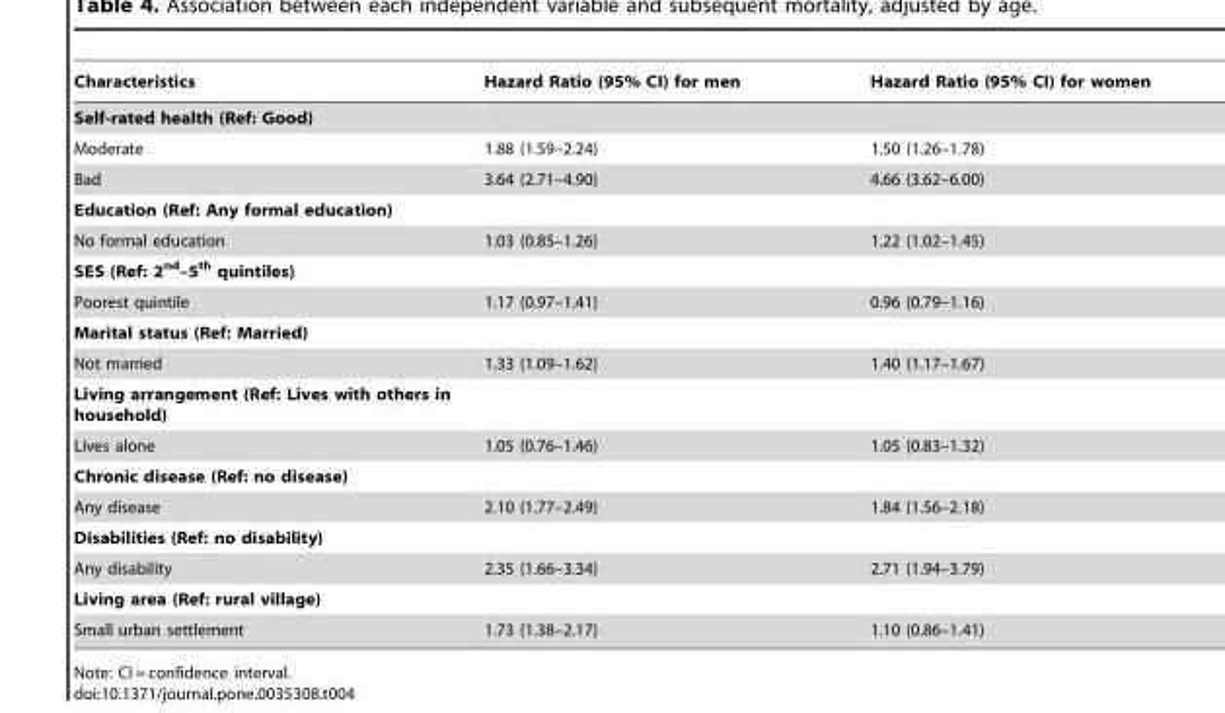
<table><thead><tr><td>Characteristics</td><td>Hazard Ratio (95% CI) for men</td><td>Hazard Ratio (95% CI) for women</td></tr></thead><tbody><tr><td colspan="3">Self-rated health (Ref: Good)</td></tr><tr><td>Moderate</td><td>1.88 (1.59–2.24)</td><td>1.50 (1.26–1.78)</td></tr><tr><td>Bad</td><td>3.64 (2.71–4.90)</td><td>4.66 (3.62–6.00)</td></tr><tr><td colspan="3">Education (Ref: Any formal education)</td></tr><tr><td>No formal education</td><td>1.03 (0.85–1.26)</td><td>1.22 (1.02–1.45)</td></tr><tr><td colspan="3">SES (Ref: 2<sup>nd</sup>–5<sup>th</sup> quintiles)</td></tr><tr><td>Poorest quintile</td><td>1.17 (0.97–1.41)</td><td>0.96 (0.79–1.16)</td></tr><tr><td colspan="3">Marital status (Ref: Married)</td></tr><tr><td>Not married</td><td>1.33 (1.09–1.62)</td><td>1.40 (1.17–1.67)</td></tr><tr><td colspan="3">Living arrangement (Ref: Lives with others in household)</td></tr><tr><td>Lives alone</td><td>1.05 (0.76–1.46)</td><td>1.05 (0.83–1.32)</td></tr><tr><td colspan="3">Chronic disease (Ref: no disease)</td></tr><tr><td>Any disease</td><td>2.10 (1.77–2.49)</td><td>1.84 (1.56–2.18)</td></tr><tr><td colspan="3">Disabilities (Ref: no disability)</td></tr><tr><td>Any disability</td><td>2.35 (1.66–3.34)</td><td>2.71 (1.94–3.79)</td></tr><tr><td colspan="3">Living area (Ref: rural village)</td></tr><tr><td>Small urban settlement</td><td>1.73 (1.38–2.17)</td><td>1.10 (0.86–1.41)</td></tr></tbody></table>